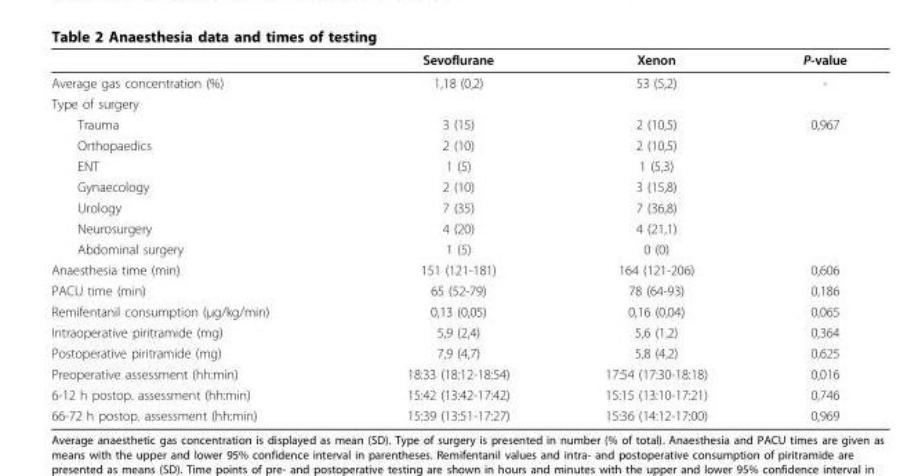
<table><thead><tr><td></td><td>Sevoflurane</td><td>Xenon</td><td>P-value</td></tr></thead><tbody><tr><td>Average gas concentration (%)</td><td>1,18 (0,2)</td><td>53 (5,2)</td><td>-</td></tr><tr><td colspan="4">Type of surgery</td></tr><tr><td>Trauma</td><td>3 (15)</td><td>2 (10,5)</td><td>0,967</td></tr><tr><td>Orthopaedics</td><td>2 (10)</td><td>2 (10,5)</td><td></td></tr><tr><td>ENT</td><td>1 (5)</td><td>1 (5,3)</td><td></td></tr><tr><td>Gynaecology</td><td>2 (10)</td><td>3 (15,8)</td><td></td></tr><tr><td>Urology</td><td>7 (35)</td><td>7 (36,8)</td><td></td></tr><tr><td>Neurosurgery</td><td>4 (20)</td><td>4 (21,1)</td><td></td></tr><tr><td>Abdominal surgery</td><td>1 (5)</td><td>0 (0)</td><td></td></tr><tr><td>Anaesthesia time (min)</td><td>151 (121-181)</td><td>164 (121-206)</td><td>0,606</td></tr><tr><td>PACU time (min)</td><td>65 (52-79)</td><td>78 (64-93)</td><td>0,186</td></tr><tr><td>Remifentanil consumption (μg/kg/min)</td><td>0,13 (0,05)</td><td>0,16 (0,04)</td><td>0,065</td></tr><tr><td>Intraoperative piritramide (mg)</td><td>5,9 (2,4)</td><td>5,6 (1,2)</td><td>0,364</td></tr><tr><td>Postoperative piritramide (mg)</td><td>7,9 (4,7)</td><td>5,8 (4,2)</td><td>0,625</td></tr><tr><td>Preoperative assessment (hh:min)</td><td>18:33 (18:12-18:54)</td><td>17:54 (17:30-18:18)</td><td>0,016</td></tr><tr><td>6-12 h postop. assessment (hh:min)</td><td>15:42 (13:42-17:42)</td><td>15:15 (13:10-17:21)</td><td>0,746</td></tr><tr><td>66-72 h postop. assessment (hh:min)</td><td>15:39 (13:51-17:27)</td><td>15:36 (14:12-17:00)</td><td>0,969</td></tr></tbody></table>